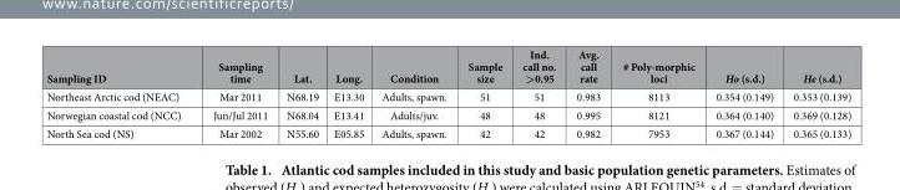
<table><thead><tr><td>Sampling ID</td><td>Sampling time</td><td>Lat.</td><td>Long.</td><td>Condition</td><td>Sample size</td><td>Ind. call no. &gt;0.95</td><td>Avg. call rate</td><td># Poly-morphic loci</td><td>Ho (s.d.)</td><td>He (s.d.)</td></tr></thead><tbody><tr><td>Northeast Arctic cod (NEAC)</td><td>Mar 2011</td><td>N68.19</td><td>E13.30</td><td>Adults, spawn.</td><td>51</td><td>51</td><td>0.983</td><td>8113</td><td>0.354 (0.149)</td><td>0.353 (0.139)</td></tr><tr><td>Norwegian coastal cod (NCC)</td><td>Jun/Jul 2011</td><td>N68.04</td><td>E13.41</td><td>Adults/juv.</td><td>48</td><td>48</td><td>0.995</td><td>8121</td><td>0.364 (0.140)</td><td>0.369 (0.128)</td></tr><tr><td>North Sea cod (NS)</td><td>Mar 2002</td><td>N55.60</td><td>E05.85</td><td>Adults, spawn.</td><td>42</td><td>42</td><td>0.982</td><td>7953</td><td>0.367 (0.144)</td><td>0.365 (0.133)</td></tr></tbody></table>